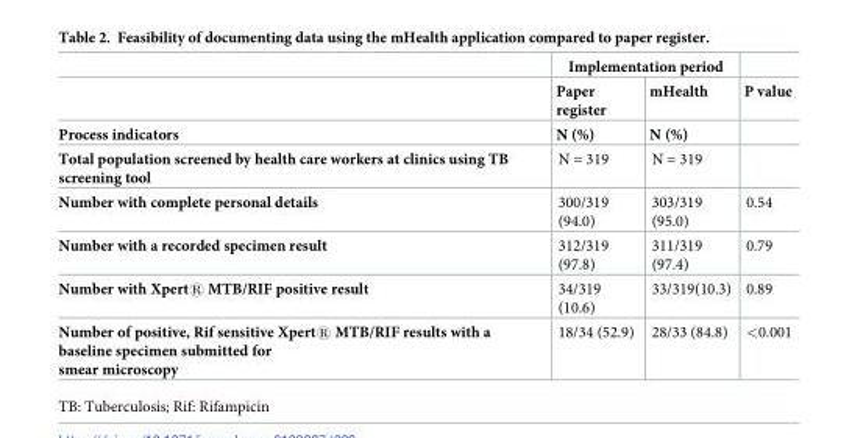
<table><thead><tr><td rowspan="3">Process indicators</td><td colspan="2">Implementation period</td><td rowspan="3">P value</td></tr><tr><td rowspan="2">Paper register N (%)</td><td rowspan="2">mHealth N (%)</td></tr><tr></tr></thead><tbody><tr><td>Total population screened by health care workers at clinics using TB screening tool</td><td>N = 319</td><td>N = 319</td><td></td></tr><tr><td>Number with complete personal details</td><td>300/319 (94.0)</td><td>303/319 (95.0)</td><td>0.54</td></tr><tr><td>Number with a recorded specimen result</td><td>312/319 (97.8)</td><td>311/319 (97.4)</td><td>0.79</td></tr><tr><td>Number with Xpert® MTB/RIF positive result</td><td>34/319 (10.6)</td><td>33/319(10.3)</td><td>0.89</td></tr><tr><td>Number of positive, Rif sensitive Xpert® MTB/RIF results with a baseline specimen submitted for smear microscopy</td><td>18/34 (52.9)</td><td>28/33 (84.8)</td><td>&lt;0.001</td></tr></tbody></table>